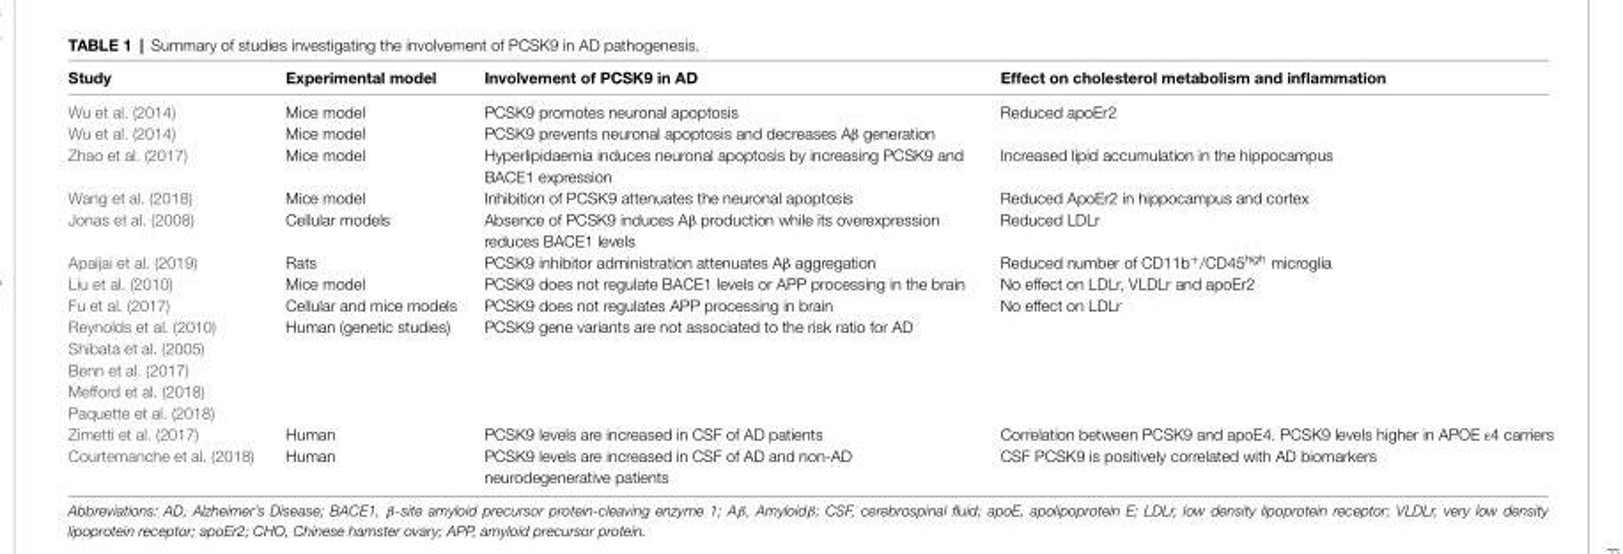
<table><thead><tr><td>Study</td><td>Experimental model</td><td>Involvement of PCSK9 in AD</td><td>Effect on cholesterol metabolism and inflammation</td></tr></thead><tbody><tr><td>Wu et al. (2014)</td><td>Mice model</td><td>PCSK9 promotes neuronal apoptosis</td><td>Reduced apoEr2</td></tr><tr><td>Wu et al. (2014)</td><td>Mice model</td><td>PCSK9 prevents neuronal apoptosis and decreases Aβ generation</td><td></td></tr><tr><td>Zhao et al. (2017)</td><td>Mice model</td><td>Hyperlipidaemia induces neuronal apoptosis by increasing PCSK9 and BACE1 expression</td><td>Increased lipid accumulation in the hippocampus</td></tr><tr><td>Wang et al. (2018)</td><td>Mice model</td><td>Inhibition of PCSK9 attenuates the neuronal apoptosis</td><td>Reduced ApoEr2 in hippocampus and cortex</td></tr><tr><td>Jonas et al. (2008)</td><td>Cellular models</td><td>Absence of PCSK9 induces Aβ production while its overexpression reduces BACE1 levels</td><td>Reduced LDLr</td></tr><tr><td>Apaijai et al. (2019)</td><td>Rats</td><td>PCSK9 inhibitor administration attenuates Aβ aggregation</td><td>Reduced number of CD11b<sup>+</sup>/CD45<sup>high</sup> microglia</td></tr><tr><td>Liu et al. (2010)</td><td>Mice model</td><td>PCSK9 does not regulate BACE1 levels or APP processing in the brain</td><td>No effect on LDLr, VLDLr and apoEr2</td></tr><tr><td>Fu et al. (2017)</td><td>Cellular and mice models</td><td>PCSK9 does not regulates APP processing in brain</td><td>No effect on LDLr</td></tr><tr><td>Reynolds et al. (2010) Shibata et al. (2005) Benn et al. (2017) Mefford et al. (2018) Paquette et al. (2018)</td><td>Human (genetic studies)</td><td>PCSK9 gene variants are not associated to the risk ratio for AD</td><td></td></tr><tr><td>Zimetti et al. (2017)</td><td>Human</td><td>PCSK9 levels are increased in CSF of AD patients</td><td>Correlation between PCSK9 and apoE4. PCSK9 levels higher in APOE ε4 carriers</td></tr><tr><td>Courtemanche et al. (2018)</td><td>Human</td><td>PCSK9 levels are increased in CSF of AD and non-AD neurodegenerative patients</td><td>CSF PCSK9 is positively correlated with AD biomarkers</td></tr></tbody></table>